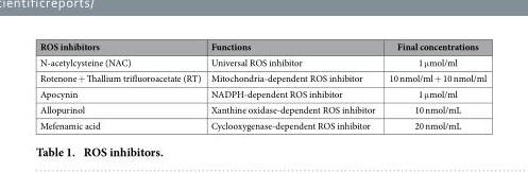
<table><thead><tr><td>ROS inhibitors</td><td>Functions</td><td>Final concentrations</td></tr></thead><tbody><tr><td>N-acetylcysteine (NAC)</td><td>Universal ROS inhibitor</td><td>1 μ mol/ml</td></tr><tr><td>Rotenone + Thallium trifluoroacetate (RT)</td><td>Mitochondria-dependent ROS inhibitor</td><td>10 nmol/ml + 10 nmol/ml</td></tr><tr><td>Apocynin</td><td>NADPH-dependent ROS inhibitor</td><td>1 μ mol/ml</td></tr><tr><td>Allopurinol</td><td>Xanthine oxidase-dependent ROS inhibitor</td><td>10 nmol/mL</td></tr><tr><td>Mefenamic acid</td><td>Cyclooxygenase-dependent ROS inhibitor</td><td>20 nmol/mL</td></tr></tbody></table>